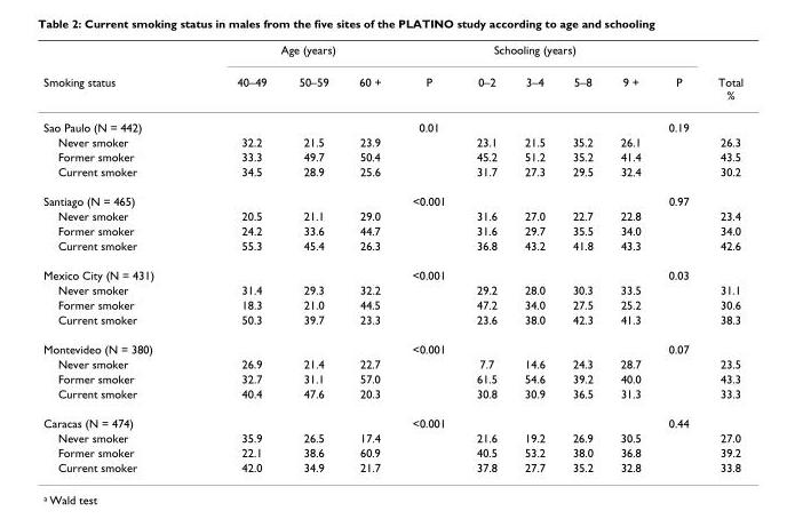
<table><thead><tr><td rowspan="2">Smoking status</td><td colspan="3">Age (years)</td><td rowspan="2">P</td><td colspan="3">Schooling (years)</td><td rowspan="2">9 +</td><td rowspan="2">P</td><td rowspan="2">Total %</td></tr><tr><td>40–49</td><td>50–59</td><td>60 +</td><td>0–2</td><td>3–4</td><td>5–8</td></tr></thead><tbody><tr><td>Sao Paulo (N = 442)</td><td></td><td></td><td></td><td>0.01</td><td></td><td></td><td></td><td></td><td>0.19</td><td></td></tr><tr><td>Never smoker</td><td>32.2</td><td>21.5</td><td>23.9</td><td></td><td>23.1</td><td>21.5</td><td>35.2</td><td>26.1</td><td></td><td>26.3</td></tr><tr><td>Former smoker</td><td>33.3</td><td>49.7</td><td>50.4</td><td></td><td>45.2</td><td>51.2</td><td>35.2</td><td>41.4</td><td></td><td>43.5</td></tr><tr><td>Current smoker</td><td>34.5</td><td>28.9</td><td>25.6</td><td></td><td>31.7</td><td>27.3</td><td>29.5</td><td>32.4</td><td></td><td>30.2</td></tr><tr><td>Santiago (N = 465)</td><td></td><td></td><td></td><td>&lt;0.001</td><td></td><td></td><td></td><td></td><td>0.97</td><td></td></tr><tr><td>Never smoker</td><td>20.5</td><td>21.1</td><td>29.0</td><td></td><td>31.6</td><td>27.0</td><td>22.7</td><td>22.8</td><td></td><td>23.4</td></tr><tr><td>Former smoker</td><td>24.2</td><td>33.6</td><td>44.7</td><td></td><td>31.6</td><td>29.7</td><td>35.5</td><td>34.0</td><td></td><td>34.0</td></tr><tr><td>Current smoker</td><td>55.3</td><td>45.4</td><td>26.3</td><td></td><td>36.8</td><td>43.2</td><td>41.8</td><td>43.3</td><td></td><td>42.6</td></tr><tr><td>Mexico City (N = 431)</td><td></td><td></td><td></td><td>&lt;0.001</td><td></td><td></td><td></td><td></td><td>0.03</td><td></td></tr><tr><td>Never smoker</td><td>31.4</td><td>29.3</td><td>32.2</td><td></td><td>29.2</td><td>28.0</td><td>30.3</td><td>33.5</td><td></td><td>31.1</td></tr><tr><td>Former smoker</td><td>18.3</td><td>21.0</td><td>44.5</td><td></td><td>47.2</td><td>34.0</td><td>27.5</td><td>25.2</td><td></td><td>30.6</td></tr><tr><td>Current smoker</td><td>50.3</td><td>39.7</td><td>23.3</td><td></td><td>23.6</td><td>38.0</td><td>42.3</td><td>41.3</td><td></td><td>38.3</td></tr><tr><td>Montevideo (N = 380)</td><td></td><td></td><td></td><td>&lt;0.001</td><td></td><td></td><td></td><td></td><td>0.07</td><td></td></tr><tr><td>Never smoker</td><td>26.9</td><td>21.4</td><td>22.7</td><td></td><td>7.7</td><td>14.6</td><td>24.3</td><td>28.7</td><td></td><td>23.5</td></tr><tr><td>Former smoker</td><td>32.7</td><td>31.1</td><td>57.0</td><td></td><td>61.5</td><td>54.6</td><td>39.2</td><td>40.0</td><td></td><td>43.3</td></tr><tr><td>Current smoker</td><td>40.4</td><td>47.6</td><td>20.3</td><td></td><td>30.8</td><td>30.9</td><td>36.5</td><td>31.3</td><td></td><td>33.3</td></tr><tr><td>Caracas (N = 474)</td><td></td><td></td><td></td><td>&lt;0.001</td><td></td><td></td><td></td><td></td><td>0.44</td><td></td></tr><tr><td>Never smoker</td><td>35.9</td><td>26.5</td><td>17.4</td><td></td><td>21.6</td><td>19.2</td><td>26.9</td><td>30.5</td><td></td><td>27.0</td></tr><tr><td>Former smoker</td><td>22.1</td><td>38.6</td><td>60.9</td><td></td><td>40.5</td><td>53.2</td><td>38.0</td><td>36.8</td><td></td><td>39.2</td></tr><tr><td>Current smoker</td><td>42.0</td><td>34.9</td><td>21.7</td><td></td><td>37.8</td><td>27.7</td><td>35.2</td><td>32.8</td><td></td><td>33.8</td></tr></tbody></table>